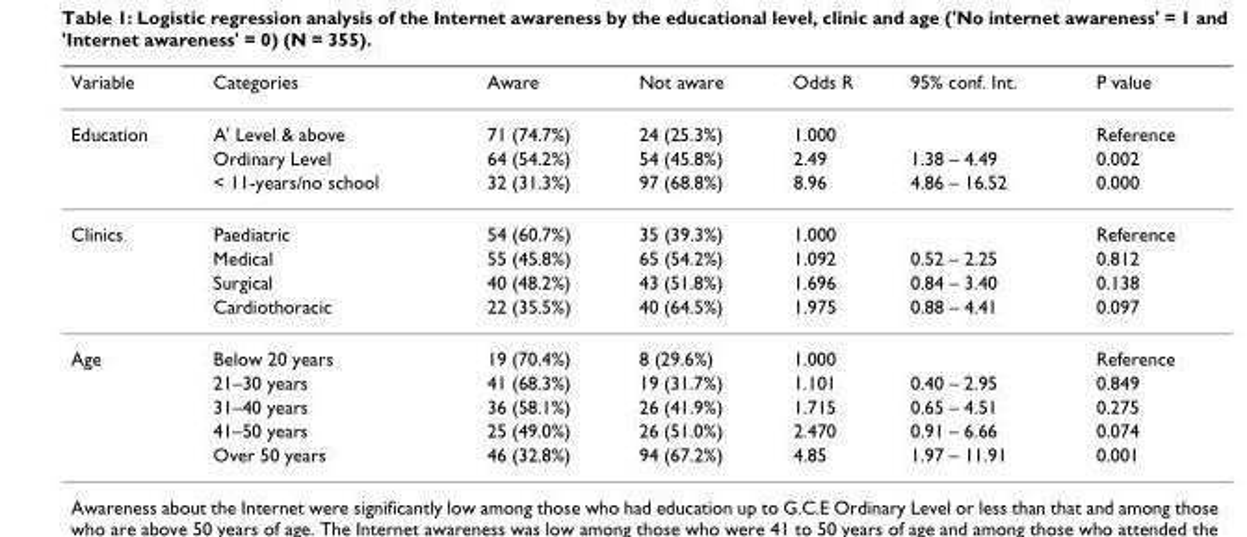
<table><thead><tr><td>Variable</td><td>Categories</td><td>Aware</td><td>Not aware</td><td>Odds R</td><td>95% conf. Int.</td><td>P value</td></tr></thead><tbody><tr><td rowspan="3">Education</td><td>A&#x27; Level &amp; above</td><td>71 (74.7%)</td><td>24 (25.3%)</td><td>1.000</td><td></td><td>Reference</td></tr><tr><td>Ordinary Level</td><td>64 (54.2%)</td><td>54 (45.8%)</td><td>2.49</td><td>1.38 – 4.49</td><td>0.002</td></tr><tr><td>&lt; 11-years/no school</td><td>32 (31.3%)</td><td>97 (68.8%)</td><td>8.96</td><td>4.86 – 16.52</td><td>0.000</td></tr><tr><td rowspan="4">Clinics</td><td>Paediatric</td><td>54 (60.7%)</td><td>35 (39.3%)</td><td>1.000</td><td></td><td>Reference</td></tr><tr><td>Medical</td><td>55 (45.8%)</td><td>65 (54.2%)</td><td>1.092</td><td>0.52 – 2.25</td><td>0.812</td></tr><tr><td>Surgical</td><td>40 (48.2%)</td><td>43 (51.8%)</td><td>1.696</td><td>0.84 – 3.40</td><td>0.138</td></tr><tr><td>Cardiothoracic</td><td>22 (35.5%)</td><td>40 (64.5%)</td><td>1.975</td><td>0.88 – 4.41</td><td>0.097</td></tr><tr><td rowspan="5">Age</td><td>Below 20 years</td><td>19 (70.4%)</td><td>8 (29.6%)</td><td>1.000</td><td></td><td>Reference</td></tr><tr><td>21–30 years</td><td>41 (68.3%)</td><td>19 (31.7%)</td><td>1.101</td><td>0.40 – 2.95</td><td>0.849</td></tr><tr><td>31–40 years</td><td>36 (58.1%)</td><td>26 (41.9%)</td><td>1.715</td><td>0.65 – 4.51</td><td>0.275</td></tr><tr><td>41–50 years</td><td>25 (49.0%)</td><td>26 (51.0%)</td><td>2.470</td><td>0.91 – 6.66</td><td>0.074</td></tr><tr><td>Over 50 years</td><td>46 (32.8%)</td><td>94 (67.2%)</td><td>4.85</td><td>1.97 – 11.91</td><td>0.001</td></tr></tbody></table>